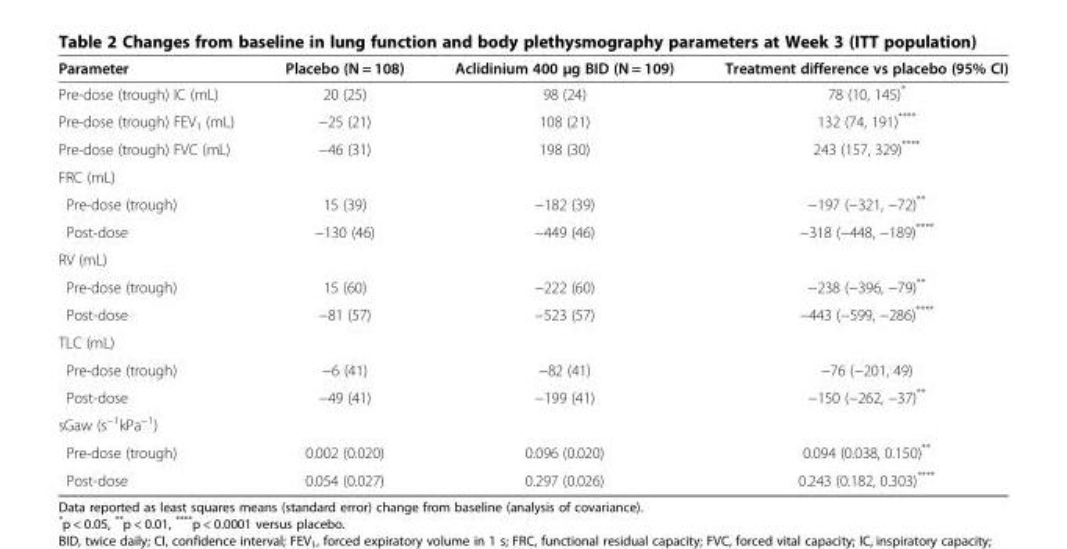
<table><thead><tr><td>Parameter</td><td>Placebo (N = 108)</td><td>Aclidinium 400 μg BID (N = 109)</td><td>Treatment difference vs placebo (95% CI)</td></tr></thead><tbody><tr><td>Pre-dose (trough) IC (mL)</td><td>20 (25)</td><td>98 (24)</td><td>78 (10, 145)*</td></tr><tr><td>Pre-dose (trough) FEV<sub>1</sub> (mL)</td><td>−25 (21)</td><td>108 (21)</td><td>132 (74, 191)****</td></tr><tr><td>Pre-dose (trough) FVC (mL)</td><td>−46 (31)</td><td>198 (30)</td><td>243 (157, 329)****</td></tr><tr><td colspan="4">FRC (mL)</td></tr><tr><td>Pre-dose (trough)</td><td>15 (39)</td><td>−182 (39)</td><td>−197 (−321, −72)**</td></tr><tr><td>Post-dose</td><td>−130 (46)</td><td>−449 (46)</td><td>−318 (−448, −189)****</td></tr><tr><td colspan="4">RV (mL)</td></tr><tr><td>Pre-dose (trough)</td><td>15 (60)</td><td>−222 (60)</td><td>−238 (−396, −79)**</td></tr><tr><td>Post-dose</td><td>−81 (57)</td><td>−523 (57)</td><td>−443 (−599, −286)****</td></tr><tr><td colspan="4">TLC (mL)</td></tr><tr><td>Pre-dose (trough)</td><td>−6 (41)</td><td>−82 (41)</td><td>−76 (−201, 49)</td></tr><tr><td>Post-dose</td><td>−49 (41)</td><td>−199 (41)</td><td>−150 (−262, −37)**</td></tr><tr><td colspan="4">sGaw (s<sup>−1</sup>kPa<sup>−1</sup>)</td></tr><tr><td>Pre-dose (trough)</td><td>0.002 (0.020)</td><td>0.096 (0.020)</td><td>0.094 (0.038, 0.150)**</td></tr><tr><td>Post-dose</td><td>0.054 (0.027)</td><td>0.297 (0.026)</td><td>0.243 (0.182, 0.303)****</td></tr></tbody></table>